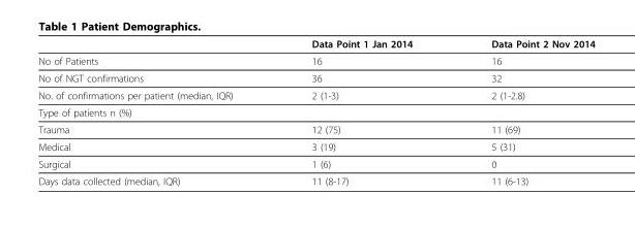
<table><thead><tr><td></td><td>Data Point 1 Jan 2014</td><td>Data Point 2 Nov 2014</td></tr></thead><tbody><tr><td>No of Patients</td><td>16</td><td>16</td></tr><tr><td>No of NGT confirmations</td><td>36</td><td>32</td></tr><tr><td>No. of confirmations per patient (median, IQR)</td><td>2 (1-3)</td><td>2 (1-2.8)</td></tr><tr><td colspan="3">Type of patients n (%)</td></tr><tr><td>Trauma</td><td>12 (75)</td><td>11 (69)</td></tr><tr><td>Medical</td><td>3 (19)</td><td>5 (31)</td></tr><tr><td>Surgical</td><td>1 (6)</td><td>0</td></tr><tr><td>Days data collected (median, IQR)</td><td>11 (8-17)</td><td>11 (6-13)</td></tr></tbody></table>